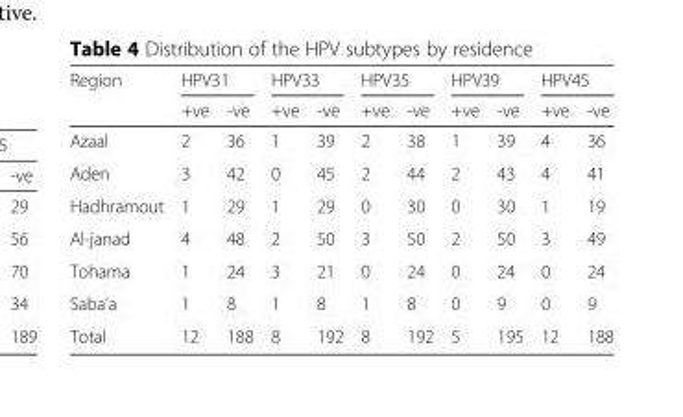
<table><thead><tr><td rowspan="2">Region</td><td colspan="2">HPV31</td><td colspan="2">HPV33</td><td colspan="2">HPV35</td><td colspan="2">HPV39</td><td colspan="2">HPV45</td></tr><tr><td>+ve</td><td>-ve</td><td>+ve</td><td>-ve</td><td>+ve</td><td>-ve</td><td>+ve</td><td>-ve</td><td>+ve</td><td>-ve</td></tr></thead><tbody><tr><td>Azaal</td><td>2</td><td>36</td><td>1</td><td>39</td><td>2</td><td>38</td><td>1</td><td>39</td><td>4</td><td>36</td></tr><tr><td>Aden</td><td>3</td><td>42</td><td>0</td><td>45</td><td>2</td><td>44</td><td>2</td><td>43</td><td>4</td><td>41</td></tr><tr><td>Hadhramout</td><td>1</td><td>29</td><td>1</td><td>29</td><td>0</td><td>30</td><td>0</td><td>30</td><td>1</td><td>19</td></tr><tr><td>Al-janad</td><td>4</td><td>48</td><td>2</td><td>50</td><td>3</td><td>50</td><td>2</td><td>50</td><td>3</td><td>49</td></tr><tr><td>Tohama</td><td>1</td><td>24</td><td>3</td><td>21</td><td>0</td><td>24</td><td>0</td><td>24</td><td>0</td><td>24</td></tr><tr><td>Saba’a</td><td>1</td><td>8</td><td>1</td><td>8</td><td>1</td><td>8</td><td>0</td><td>9</td><td>0</td><td>9</td></tr><tr><td>Total</td><td>12</td><td>188</td><td>8</td><td>192</td><td>8</td><td>192</td><td>5</td><td>195</td><td>12</td><td>188</td></tr></tbody></table>